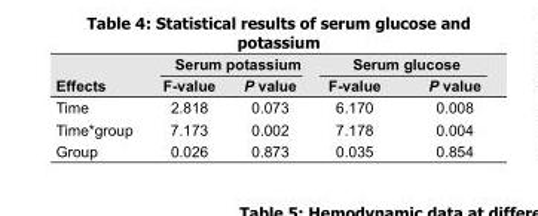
<table><thead><tr><td rowspan="2">Effects</td><td colspan="2">Serum potassium</td><td colspan="2">Serum glucose</td></tr><tr><td>F-value</td><td>P value</td><td>F-value</td><td>P value</td></tr></thead><tbody><tr><td>Time</td><td>2.818</td><td>0.073</td><td>6.170</td><td>0.008</td></tr><tr><td>Time*group</td><td>7.173</td><td>0.002</td><td>7.178</td><td>0.004</td></tr><tr><td>Group</td><td>0.026</td><td>0.873</td><td>0.035</td><td>0.854</td></tr></tbody></table>